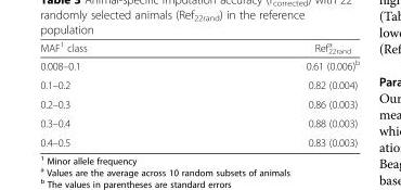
<table><thead><tr><td>MAF<sup>1</sup> class</td><td>Ref<sub>22rand</sub> <sup>a</sup></td></tr></thead><tbody><tr><td>0.008–0.1</td><td>0.61 (0.006)<sup>b</sup></td></tr><tr><td>0.1–0.2</td><td>0.82 (0.004)</td></tr><tr><td>0.2–0.3</td><td>0.86 (0.003)</td></tr><tr><td>0.3–0.4</td><td>0.88 (0.003)</td></tr><tr><td>0.4–0.5</td><td>0.83 (0.003)</td></tr></tbody></table>